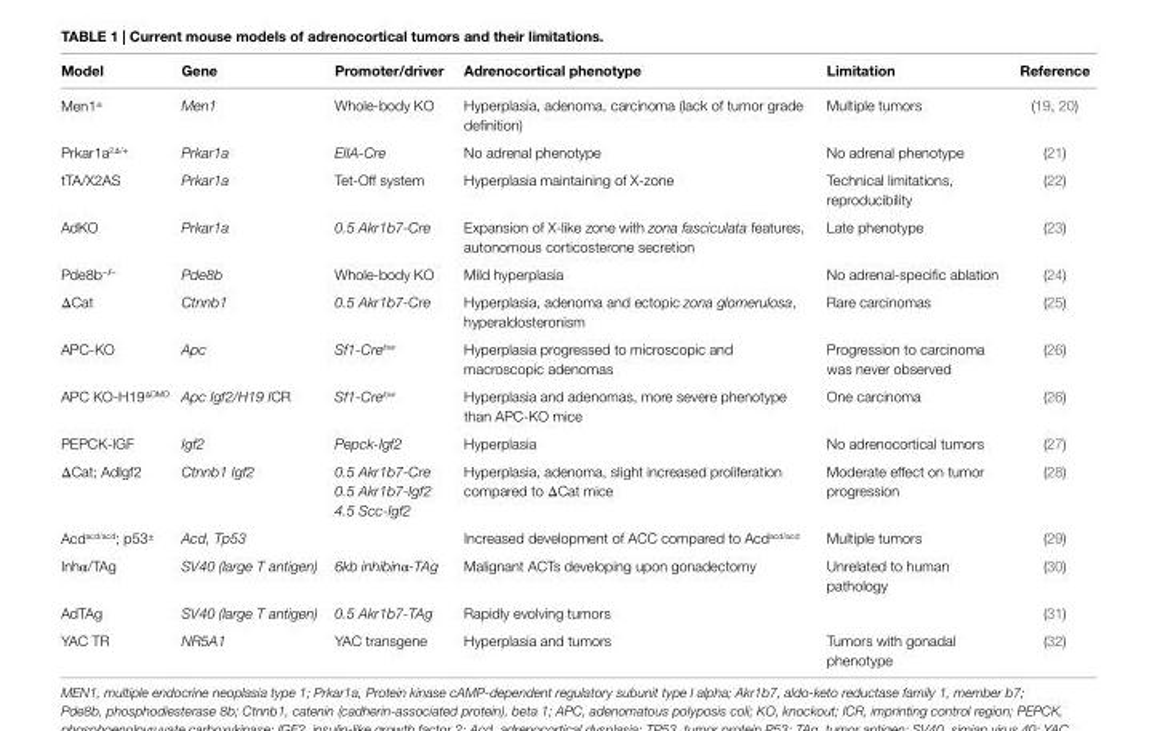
<table><thead><tr><td>Model</td><td>Gene</td><td>Promoter/driver</td><td>Adrenocortical phenotype</td><td>Limitation</td><td>Reference</td></tr></thead><tbody><tr><td>Men1<sup>±</sup></td><td>Men1</td><td>Whole-body KO</td><td>Hyperplasia, adenoma, carcinoma (lack of tumor grade definition)</td><td>Multiple tumors</td><td>(19, 20)</td></tr><tr><td>Prkar1a<sup>2Δ/+</sup></td><td>Prkar1a</td><td>EIIA-Cre</td><td>No adrenal phenotype</td><td>No adrenal phenotype</td><td>(21)</td></tr><tr><td>tTA/X2AS</td><td>Prkar1a</td><td>Tet-Off system</td><td>Hyperplasia maintaining of X-zone</td><td>Technical limitations, reproducibility</td><td>(22)</td></tr><tr><td>AdKO</td><td>Prkar1a</td><td>0.5 Akr1b7-Cre</td><td>Expansion of X-like zone with zona fasciculata features, autonomous corticosterone secretion</td><td>Late phenotype</td><td>(23)</td></tr><tr><td>Pde8b−/−</td><td>Pde8b</td><td>Whole-body KO</td><td>Mild hyperplasia</td><td>No adrenal-specific ablation</td><td>(24)</td></tr><tr><td>ΔCat</td><td>Ctnnb1</td><td>0.5 Akr1b7-Cre</td><td>Hyperplasia, adenoma and ectopic zona glomerulosa, hyperaldosteronism</td><td>Rare carcinomas</td><td>(25)</td></tr><tr><td>APC-KO</td><td>Apc</td><td>Sf1-Cre<sup>low</sup></td><td>Hyperplasia progressed to microscopic and macroscopic adenomas</td><td>Progression to carcinoma was never observed</td><td>(26)</td></tr><tr><td>APC KO-H19<sup>ΔDMD</sup></td><td>Apc Igf2/H19 ICR</td><td>Sf1-Cre<sup>low</sup></td><td>Hyperplasia and adenomas, more severe phenotype than APC-KO mice</td><td>One carcinoma</td><td>(26)</td></tr><tr><td>PEPCK-IGF</td><td>Igf2</td><td>Pepck-Igf2</td><td>Hyperplasia</td><td>No adrenocortical tumors</td><td>(27)</td></tr><tr><td rowspan="3">ΔCat; AdIgf2</td><td rowspan="3">Ctnnb1 Igf2</td><td>0.5 Akr1b7-Cre</td><td rowspan="3">Hyperplasia, adenoma, slight increased proliferation compared to ΔCat mice</td><td rowspan="3">Moderate effect on tumor progression</td><td rowspan="3">(28)</td></tr><tr><td>0.5 Akr1b7-Igf2</td></tr><tr><td>4.5 Scc-Igf2</td></tr><tr><td>Acd<sup>acd/acd</sup>; p53<sup>±</sup></td><td>Acd, Tp53</td><td></td><td>Increased development of ACC compared to Acd<sup>acd/acd</sup></td><td>Multiple tumors</td><td>(29)</td></tr><tr><td>Inhα/TAg</td><td>SV40 (large T antigen)</td><td>6kb inhibinα-TAg</td><td>Malignant ACTs developing upon gonadectomy</td><td>Unrelated to human pathology</td><td>(30)</td></tr><tr><td>AdTAg</td><td>SV40 (large T antigen)</td><td>0.5 Akr1b7-TAg</td><td>Rapidly evolving tumors</td><td></td><td>(31)</td></tr><tr><td>YAC TR</td><td>NR5A1</td><td>YAC transgene</td><td>Hyperplasia and tumors</td><td>Tumors with gonadal phenotype</td><td>(32)</td></tr></tbody></table>